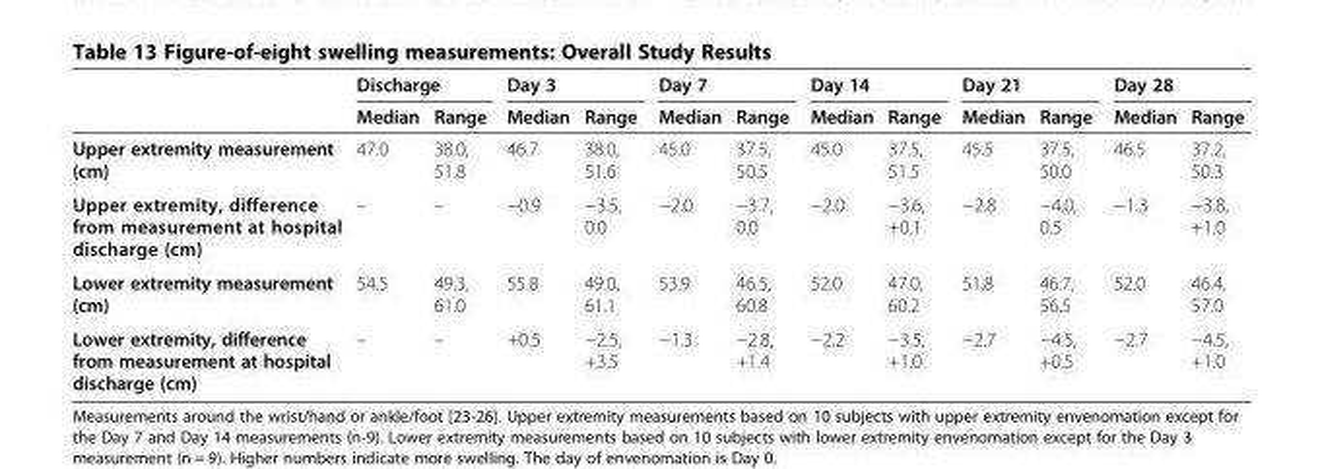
<table><thead><tr><td rowspan="2"></td><td colspan="2">Discharge</td><td colspan="2">Day 3</td><td colspan="2">Day 7</td><td colspan="2">Day 14</td><td colspan="2">Day 21</td><td colspan="2">Day 28</td></tr><tr><td>Median</td><td>Range</td><td>Median</td><td>Range</td><td>Median</td><td>Range</td><td>Median</td><td>Range</td><td>Median</td><td>Range</td><td>Median</td><td>Range</td></tr></thead><tbody><tr><td>Upper extremity measurement (cm)</td><td>47.0</td><td>38.0, 51.8</td><td>46.7</td><td>38.0, 51.6</td><td>45.0</td><td>37.5, 50.5</td><td>45.0</td><td>37.5, 51.5</td><td>45.5</td><td>37.5, 50.0</td><td>46.5</td><td>37.2, 50.3</td></tr><tr><td>Upper extremity, difference from measurement at hospital discharge (cm)</td><td>–</td><td>–</td><td>−0.9</td><td>−3.5, 0.0</td><td>−2.0</td><td>−3.7, 0.0</td><td>−2.0</td><td>−3.6, +0.1</td><td>−2.8</td><td>−4.0, 0.5</td><td>−1.3</td><td>−3.8, +1.0</td></tr><tr><td>Lower extremity measurement (cm)</td><td>54.5</td><td>49.3, 61.0</td><td>55.8</td><td>49.0, 61.1</td><td>53.9</td><td>46.5, 60.8</td><td>52.0</td><td>47.0, 60.2</td><td>51.8</td><td>46.7, 56.5</td><td>52.0</td><td>46.4, 57.0</td></tr><tr><td>Lower extremity, difference from measurement at hospital discharge (cm)</td><td>–</td><td>–</td><td>+0.5</td><td>−2.5, +3.5</td><td>−1.3</td><td>−2.8, +1.4</td><td>−2.2</td><td>−3.5, +1.0</td><td>−2.7</td><td>−4.5, +0.5</td><td>−2.7</td><td>−4.5, +1.0</td></tr></tbody></table>